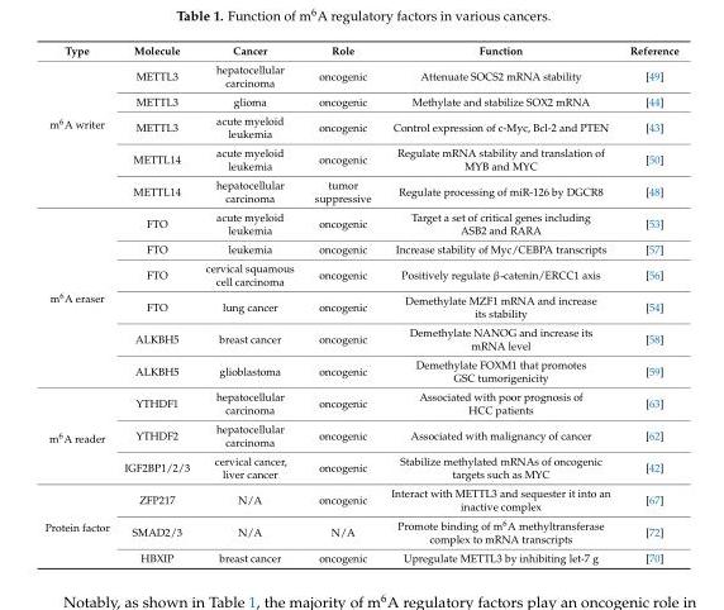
<table><thead><tr><td>Type</td><td>Molecule</td><td>Cancer</td><td>Role</td><td>Function</td><td>Reference</td></tr></thead><tbody><tr><td rowspan="5">m<sup>6</sup>A writer</td><td>METTL3</td><td>hepatocellular carcinoma</td><td>oncogenic</td><td>Attenuate SOCS2 mRNA stability</td><td>[49]</td></tr><tr><td>METTL3</td><td>glioma</td><td>oncogenic</td><td>Methylate and stabilize SOX2 mRNA</td><td>[44]</td></tr><tr><td>METTL3</td><td>acute myeloid leukemia</td><td>oncogenic</td><td>Control expression of c-Myc, Bcl-2 and PTEN</td><td>[43]</td></tr><tr><td>METTL14</td><td>acute myeloid leukemia</td><td>oncogenic</td><td>Regulate mRNA stability and translation of MYB and MYC</td><td>[50]</td></tr><tr><td>METTL14</td><td>hepatocellular carcinoma</td><td>tumor suppressive</td><td>Regulate processing of miR-126 by DGCR8</td><td>[48]</td></tr><tr><td rowspan="6">m<sup>6</sup>A eraser</td><td>FTO</td><td>acute myeloid leukemia</td><td>oncogenic</td><td>Target a set of critical genes including ASB2 and RARA</td><td>[53]</td></tr><tr><td>FTO</td><td>leukemia</td><td>oncogenic</td><td>Increase stability of Myc/CEBPA transcripts</td><td>[57]</td></tr><tr><td>FTO</td><td>cervical squamous cell carcinoma</td><td>oncogenic</td><td>Positively regulate β-catenin/ERCC1 axis</td><td>[56]</td></tr><tr><td>FTO</td><td>lung cancer</td><td>oncogenic</td><td>Demethylate MZF1 mRNA and increase its stability</td><td>[54]</td></tr><tr><td>ALKBH5</td><td>breast cancer</td><td>oncogenic</td><td>Demethylate NANOG and increase its mRNA level</td><td>[58]</td></tr><tr><td>ALKBH5</td><td>glioblastoma</td><td>oncogenic</td><td>Demethylate FOXM1 that promotes GSC tumorigenicity</td><td>[59]</td></tr><tr><td rowspan="3">m<sup>6</sup>A reader</td><td>YTHDF1</td><td>hepatocellular carcinoma</td><td>oncogenic</td><td>Associated with poor prognosis of HCC patients</td><td>[63]</td></tr><tr><td>YTHDF2</td><td>hepatocellular carcinoma</td><td>oncogenic</td><td>Associated with malignancy of cancer</td><td>[62]</td></tr><tr><td>IGF2BP1/2/3</td><td>cervical cancer, liver cancer</td><td>oncogenic</td><td>Stabilize methylated mRNAs of oncogenic targets such as MYC</td><td>[42]</td></tr><tr><td rowspan="3">Protein factor</td><td>ZFP217</td><td>N/A</td><td>oncogenic</td><td>Interact with METTL3 and sequester it into an inactive complex</td><td>[67]</td></tr><tr><td>SMAD2/3</td><td>N/A</td><td>N/A</td><td>Promote binding of m<sup>6</sup>A methyltransferase complex to mRNA transcripts</td><td>[72]</td></tr><tr><td>HBXIP</td><td>breast cancer</td><td>oncogenic</td><td>Upregulate METTL3 by inhibiting let-7 g</td><td>[70]</td></tr></tbody></table>